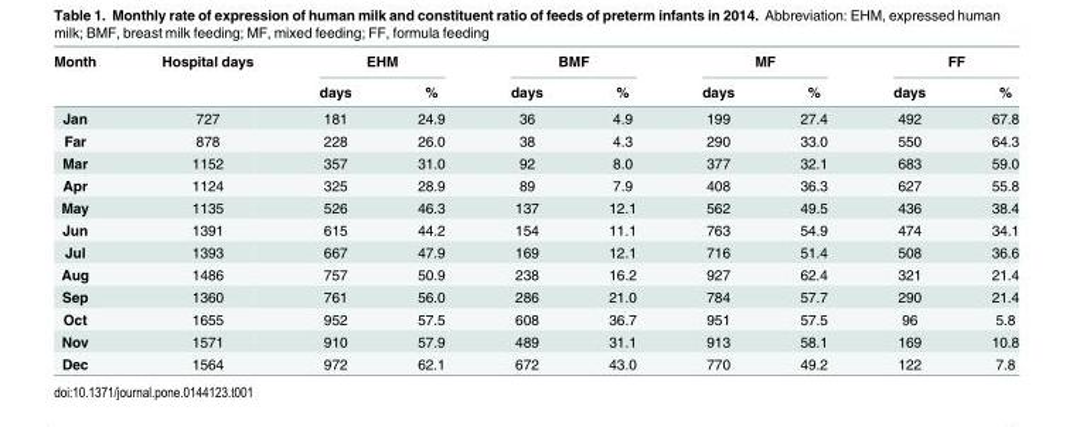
<table><thead><tr><td rowspan="2">Month</td><td rowspan="2">Hospital days</td><td colspan="2">EHM</td><td colspan="2">BMF</td><td colspan="2">MF</td><td colspan="2">FF</td></tr><tr><td>days</td><td>%</td><td>days</td><td>%</td><td>days</td><td>%</td><td>days</td><td>%</td></tr></thead><tbody><tr><td>Jan</td><td>727</td><td>181</td><td>24.9</td><td>36</td><td>4.9</td><td>199</td><td>27.4</td><td>492</td><td>67.8</td></tr><tr><td>Far</td><td>878</td><td>228</td><td>26.0</td><td>38</td><td>4.3</td><td>290</td><td>33.0</td><td>550</td><td>64.3</td></tr><tr><td>Mar</td><td>1152</td><td>357</td><td>31.0</td><td>92</td><td>8.0</td><td>377</td><td>32.1</td><td>683</td><td>59.0</td></tr><tr><td>Apr</td><td>1124</td><td>325</td><td>28.9</td><td>89</td><td>7.9</td><td>408</td><td>36.3</td><td>627</td><td>55.8</td></tr><tr><td>May</td><td>1135</td><td>526</td><td>46.3</td><td>137</td><td>12.1</td><td>562</td><td>49.5</td><td>436</td><td>38.4</td></tr><tr><td>Jun</td><td>1391</td><td>615</td><td>44.2</td><td>154</td><td>11.1</td><td>763</td><td>54.9</td><td>474</td><td>34.1</td></tr><tr><td>Jul</td><td>1393</td><td>667</td><td>47.9</td><td>169</td><td>12.1</td><td>716</td><td>51.4</td><td>508</td><td>36.6</td></tr><tr><td>Aug</td><td>1486</td><td>757</td><td>50.9</td><td>238</td><td>16.2</td><td>927</td><td>62.4</td><td>321</td><td>21.4</td></tr><tr><td>Sep</td><td>1360</td><td>761</td><td>56.0</td><td>286</td><td>21.0</td><td>784</td><td>57.7</td><td>290</td><td>21.4</td></tr><tr><td>Oct</td><td>1655</td><td>952</td><td>57.5</td><td>608</td><td>36.7</td><td>951</td><td>57.5</td><td>96</td><td>5.8</td></tr><tr><td>Nov</td><td>1571</td><td>910</td><td>57.9</td><td>489</td><td>31.1</td><td>913</td><td>58.1</td><td>169</td><td>10.8</td></tr><tr><td>Dec</td><td>1564</td><td>972</td><td>62.1</td><td>672</td><td>43.0</td><td>770</td><td>49.2</td><td>122</td><td>7.8</td></tr></tbody></table>